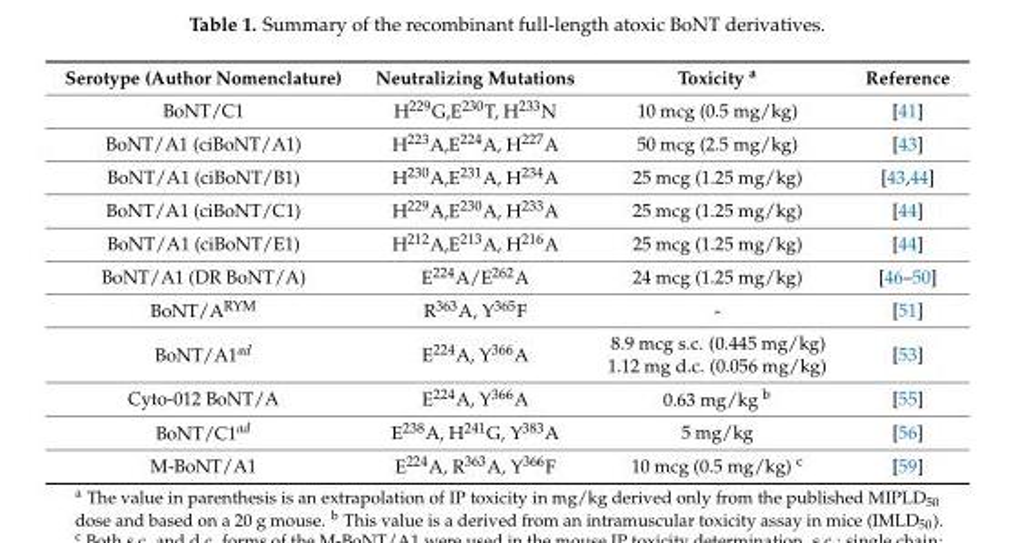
<table><thead><tr><td>Serotype (Author Nomenclature)</td><td>Neutralizing Mutations</td><td>Toxicity <sup>a</sup></td><td>Reference</td></tr></thead><tbody><tr><td>BoNT/C1</td><td>H<sup>229</sup>G,E<sup>230</sup>T, H<sup>233</sup>N</td><td>10 mcg (0.5 mg/kg)</td><td>[41]</td></tr><tr><td>BoNT/A1 (ciBoNT/A1)</td><td>H<sup>223</sup>A,E<sup>224</sup>A, H<sup>227</sup>A</td><td>50 mcg (2.5 mg/kg)</td><td>[43]</td></tr><tr><td>BoNT/A1 (ciBoNT/B1)</td><td>H<sup>230</sup>A,E<sup>231</sup>A, H<sup>234</sup>A</td><td>25 mcg (1.25 mg/kg)</td><td>[43,44]</td></tr><tr><td>BoNT/A1 (ciBoNT/C1)</td><td>H<sup>229</sup>A,E<sup>230</sup>A, H<sup>233</sup>A</td><td>25 mcg (1.25 mg/kg)</td><td>[44]</td></tr><tr><td>BoNT/A1 (ciBoNT/E1)</td><td>H<sup>212</sup>A,E<sup>213</sup>A, H<sup>216</sup>A</td><td>25 mcg (1.25 mg/kg)</td><td>[44]</td></tr><tr><td>BoNT/A1 (DR BoNT/A)</td><td>E<sup>224</sup>A/E<sup>262</sup>A</td><td>24 mcg (1.25 mg/kg)</td><td>[46–50]</td></tr><tr><td>BoNT/A<sup>RYM</sup></td><td>R<sup>363</sup>A, Y<sup>365</sup>F</td><td>-</td><td>[51]</td></tr><tr><td>BoNT/A1<sup>ad</sup></td><td>E<sup>224</sup>A, Y<sup>366</sup>A</td><td>8.9 mcg s.c. (0.445 mg/kg) 1.12 mg d.c. (0.056 mg/kg)</td><td>[53]</td></tr><tr><td>Cyto-012 BoNT/A</td><td>E<sup>224</sup>A, Y<sup>366</sup>A</td><td>0.63 mg/kg <sup>b</sup></td><td>[55]</td></tr><tr><td>BoNT/C1<sup>ad</sup></td><td>E<sup>238</sup>A, H<sup>241</sup>G, Y<sup>383</sup>A</td><td>5 mg/kg</td><td>[56]</td></tr><tr><td>M-BoNT/A1</td><td>E<sup>224</sup>A, R<sup>363</sup>A, Y<sup>366</sup>F</td><td>10 mcg (0.5 mg/kg) <sup>c</sup></td><td>[59]</td></tr></tbody></table>